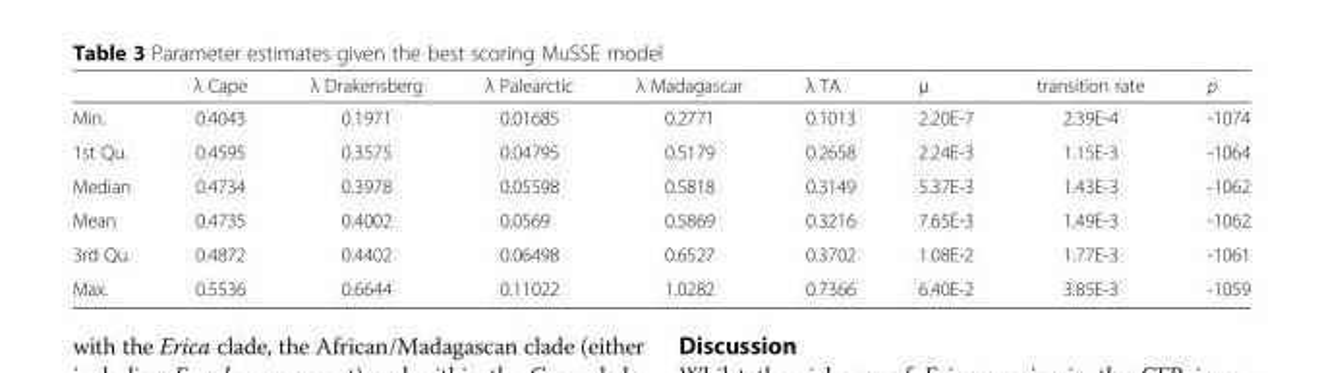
<table><thead><tr><td></td><td>λ Cape</td><td>λ Drakensberg</td><td>λ Palearctic</td><td>λ Madagascar</td><td>λ TA</td><td>μ</td><td>transition rate</td><td>p</td></tr></thead><tbody><tr><td>Min.</td><td>0.4043</td><td>0.1971</td><td>0.01685</td><td>0.2771</td><td>0.1013</td><td>2.20E-7</td><td>2.39E-4</td><td>-1074</td></tr><tr><td>1st Qu.</td><td>0.4595</td><td>0.3575</td><td>0.04795</td><td>0.5179</td><td>0.2658</td><td>2.24E-3</td><td>1.15E-3</td><td>-1064</td></tr><tr><td>Median</td><td>0.4734</td><td>0.3978</td><td>0.05598</td><td>0.5818</td><td>0.3149</td><td>5.37E-3</td><td>1.43E-3</td><td>-1062</td></tr><tr><td>Mean</td><td>0.4735</td><td>0.4002</td><td>0.0569</td><td>0.5869</td><td>0.3216</td><td>7.65E-3</td><td>1.49E-3</td><td>-1062</td></tr><tr><td>3rd Qu.</td><td>0.4872</td><td>0.4402</td><td>0.06498</td><td>0.6527</td><td>0.3702</td><td>1.08E-2</td><td>1.77E-3</td><td>-1061</td></tr><tr><td>Max.</td><td>0.5536</td><td>0.6644</td><td>0.11022</td><td>1.0282</td><td>0.7366</td><td>6.40E-2</td><td>3.85E-3</td><td>-1059</td></tr></tbody></table>